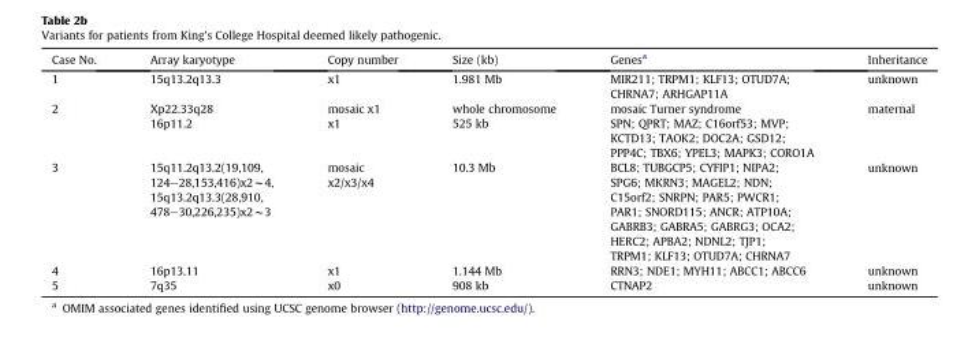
<table><thead><tr><td>Case No.</td><td>Array karyotype</td><td>Copy number</td><td>Size (kb)</td><td>Genes<sup>a</sup></td><td>Inheritance</td></tr></thead><tbody><tr><td>1</td><td>15q13.2q13.3</td><td>x1</td><td>1.981 Mb</td><td>MIR211; TRPM1; KLF13; OTUD7A; CHRNA7; ARHGAP11A</td><td>unknown</td></tr><tr><td>2</td><td>Xp22.33q28 16p11.2</td><td>mosaic x1 x1</td><td>whole chromosome 525 kb</td><td>mosaic Turner syndrome SPN; QPRT; MAZ; C16orf53; MVP; KCTD13; TAOK2; DOC2A; GSD12; PPP4C; TBX6; YPEL3; MAPK3; CORO1A</td><td>maternal</td></tr><tr><td>3</td><td>15q11.2q13.2(19,109, 124–28,153,416)x2∼4, 15q13.2q13.3(28,910, 478–30,226,235)x2∼3</td><td>mosaic x2/x3/x4</td><td>10.3 Mb</td><td>BCL8; TUBGCP5; CYFIP1; NIPA2; SPG6; MKRN3; MAGEL2; NDN; C15orf2; SNRPN; PAR5; PWCR1; PAR1; SNORD115; ANCR; ATP10A; GABRB3; GABRA5; GABRG3; OCA2; HERC2; APBA2; NDNL2; TJP1; TRPM1; KLF13; OTUD7A; CHRNA7</td><td>unknown</td></tr><tr><td>4</td><td>16p13.11</td><td>x1</td><td>1.144 Mb</td><td>RRN3; NDE1; MYH11; ABCC1; ABCC6</td><td>unknown</td></tr><tr><td>5</td><td>7q35</td><td>x0</td><td>908 kb</td><td>CTNAP2</td><td>unknown</td></tr></tbody></table>